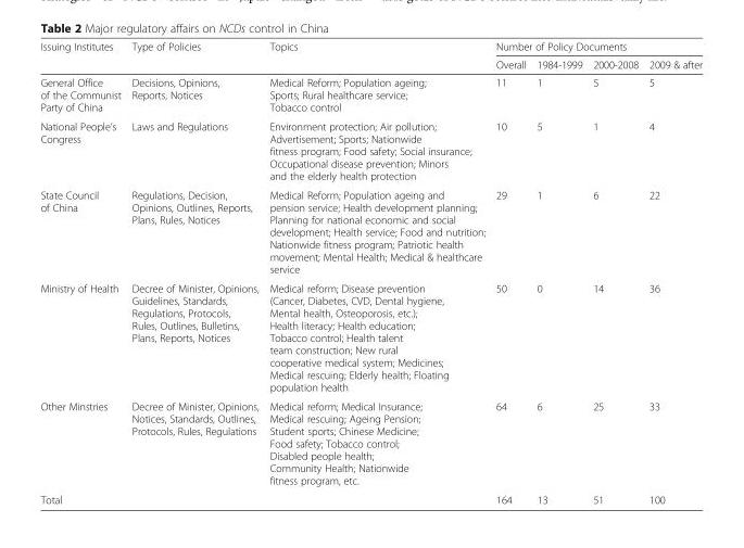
<table><thead><tr><td rowspan="2">Issuing Institutes</td><td rowspan="2">Type of Policies</td><td rowspan="2">Topics</td><td colspan="4">Number of Policy Documents</td></tr><tr><td>Overall</td><td>1984-1999</td><td>2000-2008</td><td>2009 &amp; after</td></tr></thead><tbody><tr><td>General Office of the Communist Party of China</td><td>Decisions, Opinions, Reports, Notices</td><td>Medical Reform; Population ageing; Sports; Rural healthcare service; Tobacco control</td><td>11</td><td>1</td><td>5</td><td>5</td></tr><tr><td>National People’s Congress</td><td>Laws and Regulations</td><td>Environment protection; Air pollution; Advertisement; Sports; Nationwide fitness program; Food safety; Social insurance; Occupational disease prevention; Minors and the elderly health protection</td><td>10</td><td>5</td><td>1</td><td>4</td></tr><tr><td>State Council of China</td><td>Regulations, Decision, Opinions, Outlines, Reports, Plans, Rules, Notices</td><td>Medical Reform; Population ageing and pension service; Health development planning; Planning for national economic and social development; Health service; Food and nutrition; Nationwide fitness program; Patriotic health movement; Mental Health; Medical &amp; healthcare service</td><td>29</td><td>1</td><td>6</td><td>22</td></tr><tr><td>Ministry of Health</td><td>Decree of Minister, Opinions, Guidelines, Standards, Regulations, Protocols, Rules, Outlines, Bulletins, Plans, Reports, Notices</td><td>Medical reform; Disease prevention (Cancer, Diabetes, CVD, Dental hygiene, Mental health, Osteoporosis, etc.); Health literacy; Health education; Tobacco control; Health talent team construction; New rural cooperative medical system; Medicines; Medical rescuing; Elderly health; Floating population health</td><td>50</td><td>0</td><td>14</td><td>36</td></tr><tr><td>Other Minstries</td><td>Decree of Minister, Opinions, Notices, Standards, Outlines, Protocols, Rules, Regulations</td><td>Medical reform; Medical Insurance; Medical rescuing; Ageing Pension; Student sports; Chinese Medicine; Food safety; Tobacco control; Disabled people health; Community Health; Nationwide fitness program, etc.</td><td>64</td><td>6</td><td>25</td><td>33</td></tr><tr><td>Total</td><td colspan="2"></td><td>164</td><td>13</td><td>51</td><td>100</td></tr></tbody></table>